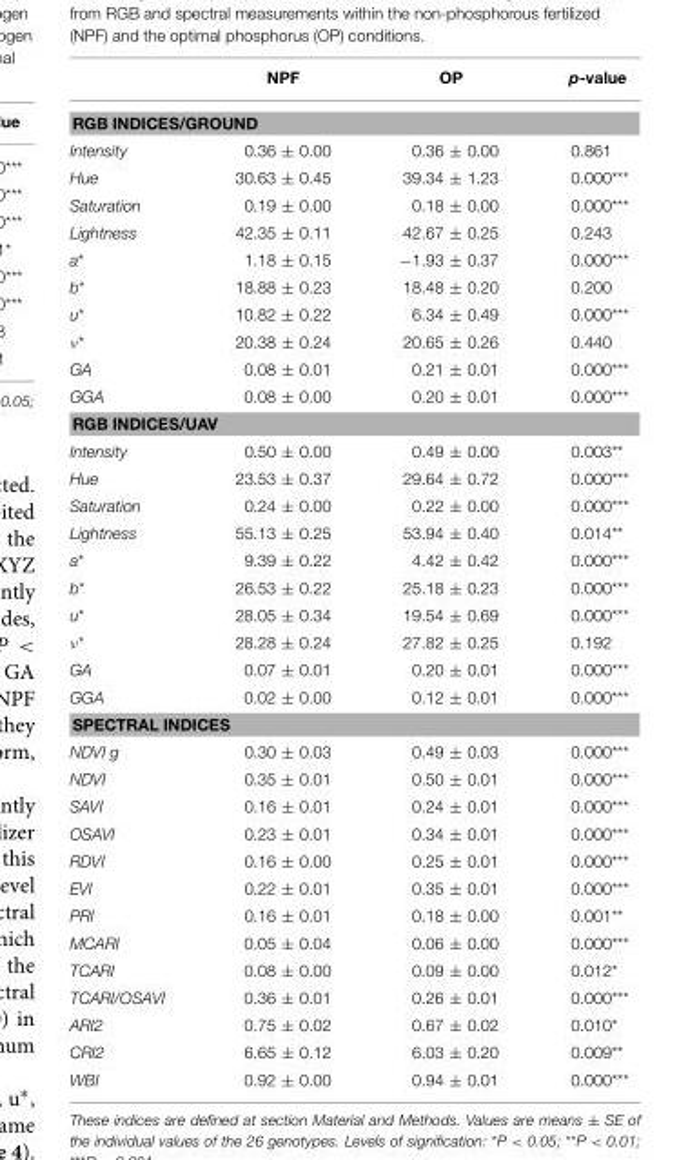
<table><thead><tr><td></td><td>NPF</td><td>OP</td><td>p-value</td></tr></thead><tbody><tr><td colspan="4">RGB INDICES/GROUND</td></tr><tr><td>Intensity</td><td>0.36 ± 0.00</td><td>0.36 ± 0.00</td><td>0.861</td></tr><tr><td>Hue</td><td>30.63 ± 0.45</td><td>39.34 ± 1.23</td><td>0.000***</td></tr><tr><td>Saturation</td><td>0.19 ± 0.00</td><td>0.18 ± 0.00</td><td>0.000***</td></tr><tr><td>Lightness</td><td>42.35 ± 0.11</td><td>42.67 ± 0.25</td><td>0.243</td></tr><tr><td>a*</td><td>1.18 ± 0.15</td><td>−1.93 ± 0.37</td><td>0.000***</td></tr><tr><td>b*</td><td>18.88 ± 0.23</td><td>18.48 ± 0.20</td><td>0.200</td></tr><tr><td>u*</td><td>10.82 ± 0.22</td><td>6.34 ± 0.49</td><td>0.000***</td></tr><tr><td>ν*</td><td>20.38 ± 0.24</td><td>20.65 ± 0.26</td><td>0.440</td></tr><tr><td>GA</td><td>0.08 ± 0.01</td><td>0.21 ± 0.01</td><td>0.000***</td></tr><tr><td>GGA</td><td>0.08 ± 0.00</td><td>0.20 ± 0.01</td><td>0.000***</td></tr><tr><td colspan="4">RGB INDICES/UAV</td></tr><tr><td>Intensity</td><td>0.50 ± 0.00</td><td>0.49 ± 0.00</td><td>0.003**</td></tr><tr><td>Hue</td><td>23.53 ± 0.37</td><td>29.64 ± 0.72</td><td>0.000***</td></tr><tr><td>Saturation</td><td>0.24 ± 0.00</td><td>0.22 ± 0.00</td><td>0.000***</td></tr><tr><td>Lightness</td><td>55.13 ± 0.25</td><td>53.94 ± 0.40</td><td>0.014**</td></tr><tr><td>a*</td><td>9.39 ± 0.22</td><td>4.42 ± 0.42</td><td>0.000***</td></tr><tr><td>b*</td><td>26.53 ± 0.22</td><td>25.18 ± 0.23</td><td>0.000***</td></tr><tr><td>u*</td><td>28.05 ± 0.34</td><td>19.54 ± 0.69</td><td>0.000***</td></tr><tr><td>ν*</td><td>28.28 ± 0.24</td><td>27.82 ± 0.25</td><td>0.192</td></tr><tr><td>GA</td><td>0.07 ± 0.01</td><td>0.20 ± 0.01</td><td>0.000***</td></tr><tr><td>GGA</td><td>0.02 ± 0.00</td><td>0.12 ± 0.01</td><td>0.000***</td></tr><tr><td colspan="4">SPECTRAL INDICES</td></tr><tr><td>NDVI g</td><td>0.30 ± 0.03</td><td>0.49 ± 0.03</td><td>0.000***</td></tr><tr><td>NDVI</td><td>0.35 ± 0.01</td><td>0.50 ± 0.01</td><td>0.000***</td></tr><tr><td>SAVI</td><td>0.16 ± 0.01</td><td>0.24 ± 0.01</td><td>0.000***</td></tr><tr><td>OSAVI</td><td>0.23 ± 0.01</td><td>0.34 ± 0.01</td><td>0.000***</td></tr><tr><td>RDVI</td><td>0.16 ± 0.00</td><td>0.25 ± 0.01</td><td>0.000***</td></tr><tr><td>EVI</td><td>0.22 ± 0.01</td><td>0.35 ± 0.01</td><td>0.000***</td></tr><tr><td>PRI</td><td>0.16 ± 0.01</td><td>0.18 ± 0.00</td><td>0.001**</td></tr><tr><td>MCARI</td><td>0.05 ± 0.04</td><td>0.06 ± 0.00</td><td>0.000***</td></tr><tr><td>TCARI</td><td>0.08 ± 0.00</td><td>0.09 ± 0.00</td><td>0.012*</td></tr><tr><td>TCARI/OSAVI</td><td>0.36 ± 0.01</td><td>0.26 ± 0.01</td><td>0.000***</td></tr><tr><td>ARI2</td><td>0.75 ± 0.02</td><td>0.67 ± 0.02</td><td>0.010*</td></tr><tr><td>CRI2</td><td>6.65 ± 0.12</td><td>6.03 ± 0.20</td><td>0.009**</td></tr><tr><td>WBI</td><td>0.92 ± 0.00</td><td>0.94 ± 0.01</td><td>0.000***</td></tr></tbody></table>